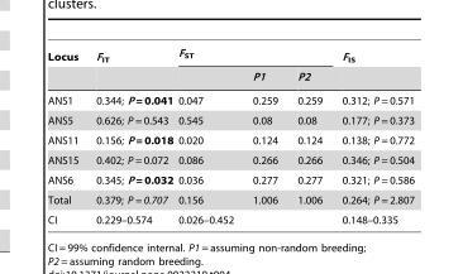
<table><thead><tr><td rowspan="2">Locus</td><td rowspan="2">F<sub>IT</sub></td><td colspan="3">F<sub>ST</sub></td><td rowspan="2">F<sub>IS</sub></td></tr><tr><td></td><td>P1</td><td>P2</td></tr></thead><tbody><tr><td>ANS1</td><td>0.344; P = 0.041</td><td>0.047</td><td>0.259</td><td>0.259</td><td>0.312; P = 0.571</td></tr><tr><td>ANS5</td><td>0.626; P = 0.543</td><td>0.545</td><td>0.08</td><td>0.08</td><td>0.177; P = 0.373</td></tr><tr><td>ANS11</td><td>0.156; P = 0.018</td><td>0.020</td><td>0.124</td><td>0.124</td><td>0.138; P = 0.772</td></tr><tr><td>ANS15</td><td>0.402; P = 0.072</td><td>0.086</td><td>0.266</td><td>0.266</td><td>0.346; P = 0.504</td></tr><tr><td>ANS6</td><td>0.345; P = 0.032</td><td>0.036</td><td>0.277</td><td>0.277</td><td>0.321; P = 0.586</td></tr><tr><td>Total</td><td>0.379; P = 0.707</td><td>0.156</td><td>1.006</td><td>1.006</td><td>0.264; P = 2.807</td></tr><tr><td>CI</td><td>0.229–0.574</td><td>0.026–0.452</td><td></td><td></td><td>0.148–0.335</td></tr></tbody></table>